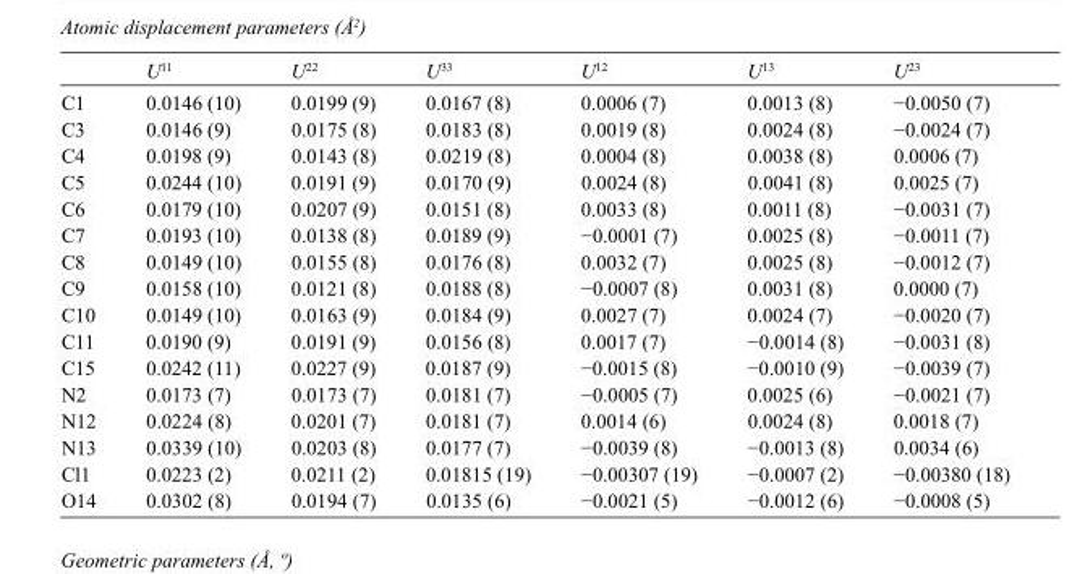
<table><thead><tr><td></td><td>U<sup>11</sup></td><td>U<sup>22</sup></td><td>U<sup>33</sup></td><td>U<sup>12</sup></td><td>U<sup>13</sup></td><td>U<sup>23</sup></td></tr></thead><tbody><tr><td>C1</td><td>0.0146 (10)</td><td>0.0199 (9)</td><td>0.0167 (8)</td><td>0.0006 (7)</td><td>0.0013 (8)</td><td>−0.0050 (7)</td></tr><tr><td>C3</td><td>0.0146 (9)</td><td>0.0175 (8)</td><td>0.0183 (8)</td><td>0.0019 (8)</td><td>0.0024 (8)</td><td>−0.0024 (7)</td></tr><tr><td>C4</td><td>0.0198 (9)</td><td>0.0143 (8)</td><td>0.0219 (8)</td><td>0.0004 (8)</td><td>0.0038 (8)</td><td>0.0006 (7)</td></tr><tr><td>C5</td><td>0.0244 (10)</td><td>0.0191 (9)</td><td>0.0170 (9)</td><td>0.0024 (8)</td><td>0.0041 (8)</td><td>0.0025 (7)</td></tr><tr><td>C6</td><td>0.0179 (10)</td><td>0.0207 (9)</td><td>0.0151 (8)</td><td>0.0033 (8)</td><td>0.0011 (8)</td><td>−0.0031 (7)</td></tr><tr><td>C7</td><td>0.0193 (10)</td><td>0.0138 (8)</td><td>0.0189 (9)</td><td>−0.0001 (7)</td><td>0.0025 (8)</td><td>−0.0011 (7)</td></tr><tr><td>C8</td><td>0.0149 (10)</td><td>0.0155 (8)</td><td>0.0176 (8)</td><td>0.0032 (7)</td><td>0.0025 (8)</td><td>−0.0012 (7)</td></tr><tr><td>C9</td><td>0.0158 (10)</td><td>0.0121 (8)</td><td>0.0188 (8)</td><td>−0.0007 (8)</td><td>0.0031 (8)</td><td>0.0000 (7)</td></tr><tr><td>C10</td><td>0.0149 (10)</td><td>0.0163 (9)</td><td>0.0184 (9)</td><td>0.0027 (7)</td><td>0.0024 (7)</td><td>−0.0020 (7)</td></tr><tr><td>C11</td><td>0.0190 (9)</td><td>0.0191 (9)</td><td>0.0156 (8)</td><td>0.0017 (7)</td><td>−0.0014 (8)</td><td>−0.0031 (8)</td></tr><tr><td>C15</td><td>0.0242 (11)</td><td>0.0227 (9)</td><td>0.0187 (9)</td><td>−0.0015 (8)</td><td>−0.0010 (9)</td><td>−0.0039 (7)</td></tr><tr><td>N2</td><td>0.0173 (7)</td><td>0.0173 (7)</td><td>0.0181 (7)</td><td>−0.0005 (7)</td><td>0.0025 (6)</td><td>−0.0021 (7)</td></tr><tr><td>N12</td><td>0.0224 (8)</td><td>0.0201 (7)</td><td>0.0181 (7)</td><td>0.0014 (6)</td><td>0.0024 (8)</td><td>0.0018 (7)</td></tr><tr><td>N13</td><td>0.0339 (10)</td><td>0.0203 (8)</td><td>0.0177 (7)</td><td>−0.0039 (8)</td><td>−0.0013 (8)</td><td>0.0034 (6)</td></tr><tr><td>Cl1</td><td>0.0223 (2)</td><td>0.0211 (2)</td><td>0.01815 (19)</td><td>−0.00307 (19)</td><td>−0.0007 (2)</td><td>−0.00380 (18)</td></tr><tr><td>O14</td><td>0.0302 (8)</td><td>0.0194 (7)</td><td>0.0135 (6)</td><td>−0.0021 (5)</td><td>−0.0012 (6)</td><td>−0.0008 (5)</td></tr></tbody></table>